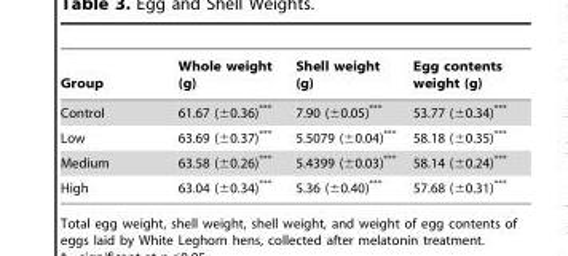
<table><thead><tr><td>Group</td><td>Whole weight (g)</td><td>Shell weight (g)</td><td>Egg contents weight (g)</td></tr></thead><tbody><tr><td>Control</td><td>61.67 (±0.36)***</td><td>7.90 (±0.05)***</td><td>53.77 (±0.34)***</td></tr><tr><td>Low</td><td>63.69 (±0.37)***</td><td>5.5079 (±0.04)***</td><td>58.18 (±0.35)***</td></tr><tr><td>Medium</td><td>63.58 (±0.26)***</td><td>5.4399 (±0.03)***</td><td>58.14 (±0.24)***</td></tr><tr><td>High</td><td>63.04 (±0.34)***</td><td>5.36 (±0.40)***</td><td>57.68 (±0.31)***</td></tr></tbody></table>